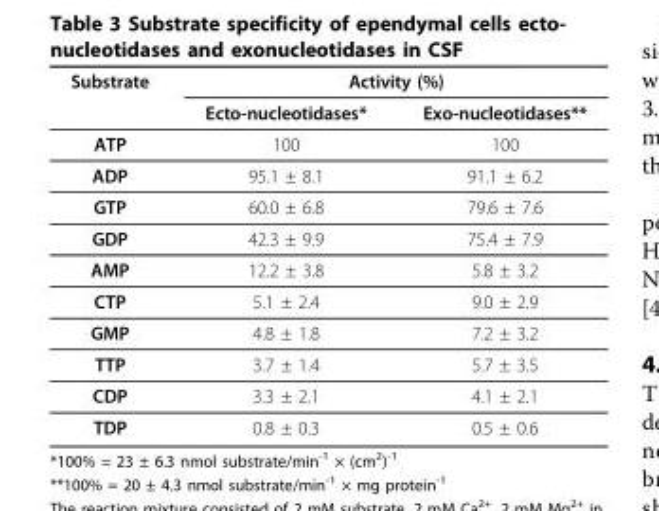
<table><thead><tr><td rowspan="2">Substrate</td><td colspan="2">Activity (%)</td></tr><tr><td>Ecto-nucleotidases*</td><td>Exo-nucleotidases**</td></tr></thead><tbody><tr><td>ATP</td><td>100</td><td>100</td></tr><tr><td>ADP</td><td>95.1 ± 8.1</td><td>91.1 ± 6.2</td></tr><tr><td>GTP</td><td>60.0 ± 6.8</td><td>79.6 ± 7.6</td></tr><tr><td>GDP</td><td>42.3 ± 9.9</td><td>75.4 ± 7.9</td></tr><tr><td>AMP</td><td>12.2 ± 3.8</td><td>5.8 ± 3.2</td></tr><tr><td>CTP</td><td>5.1 ± 2.4</td><td>9.0 ± 2.9</td></tr><tr><td>GMP</td><td>4.8 ± 1.8</td><td>7.2 ± 3.2</td></tr><tr><td>TTP</td><td>3.7 ± 1.4</td><td>5.7 ± 3.5</td></tr><tr><td>CDP</td><td>3.3 ± 2.1</td><td>4.1 ± 2.1</td></tr><tr><td>TDP</td><td>0.8 ± 0.3</td><td>0.5 ± 0.6</td></tr></tbody></table>